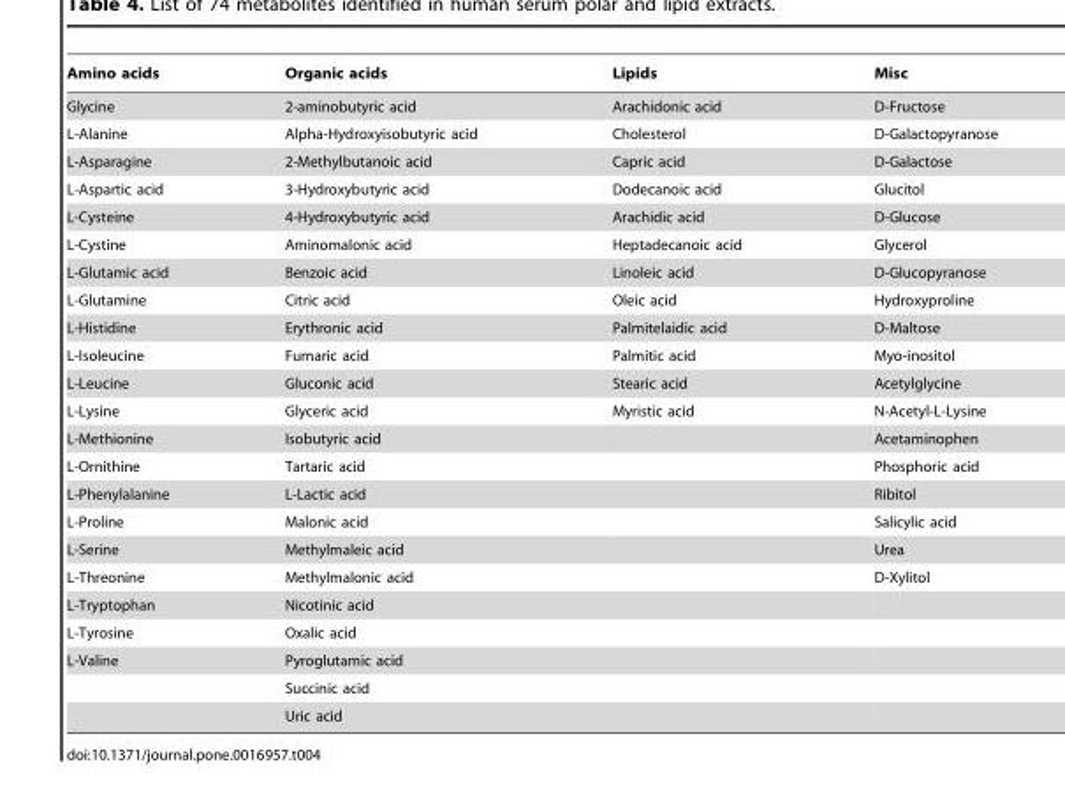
<table><thead><tr><td>Amino acids</td><td>Organic acids</td><td>Lipids</td><td>Misc</td></tr></thead><tbody><tr><td>Glycine</td><td>2-aminobutyric acid</td><td>Arachidonic acid</td><td>D-Fructose</td></tr><tr><td>L-Alanine</td><td>Alpha-Hydroxyisobutyric acid</td><td>Cholesterol</td><td>D-Galactopyranose</td></tr><tr><td>L-Asparagine</td><td>2-Methylbutanoic acid</td><td>Capric acid</td><td>D-Galactose</td></tr><tr><td>L-Aspartic acid</td><td>3-Hydroxybutyric acid</td><td>Dodecanoic acid</td><td>Glucitol</td></tr><tr><td>L-Cysteine</td><td>4-Hydroxybutyric acid</td><td>Arachidic acid</td><td>D-Glucose</td></tr><tr><td>L-Cystine</td><td>Aminomalonic acid</td><td>Heptadecanoic acid</td><td>Glycerol</td></tr><tr><td>L-Glutamic acid</td><td>Benzoic acid</td><td>Linoleic acid</td><td>D-Glucopyranose</td></tr><tr><td>L-Glutamine</td><td>Citric acid</td><td>Oleic acid</td><td>Hydroxyproline</td></tr><tr><td>L-Histidine</td><td>Erythronic acid</td><td>Palmitelaidic acid</td><td>D-Maltose</td></tr><tr><td>L-Isoleucine</td><td>Fumaric acid</td><td>Palmitic acid</td><td>Myo-inositol</td></tr><tr><td>L-Leucine</td><td>Gluconic acid</td><td>Stearic acid</td><td>Acetylglycine</td></tr><tr><td>L-Lysine</td><td>Glyceric acid</td><td>Myristic acid</td><td>N-Acetyl-L-Lysine</td></tr><tr><td>L-Methionine</td><td>Isobutyric acid</td><td></td><td>Acetaminophen</td></tr><tr><td>L-Ornithine</td><td>Tartaric acid</td><td></td><td>Phosphoric acid</td></tr><tr><td>L-Phenylalanine</td><td>L-Lactic acid</td><td></td><td>Ribitol</td></tr><tr><td>L-Proline</td><td>Malonic acid</td><td></td><td>Salicylic acid</td></tr><tr><td>L-Serine</td><td>Methylmaleic acid</td><td></td><td>Urea</td></tr><tr><td>L-Threonine</td><td>Methylmalonic acid</td><td></td><td>D-Xylitol</td></tr><tr><td>L-Tryptophan</td><td>Nicotinic acid</td><td></td><td></td></tr><tr><td>L-Tyrosine</td><td>Oxalic acid</td><td></td><td></td></tr><tr><td rowspan="3">L-Valine</td><td>Pyroglutamic acid</td><td></td><td></td></tr><tr><td>Succinic acid</td><td></td><td></td></tr><tr><td>Uric acid</td><td></td><td></td></tr></tbody></table>